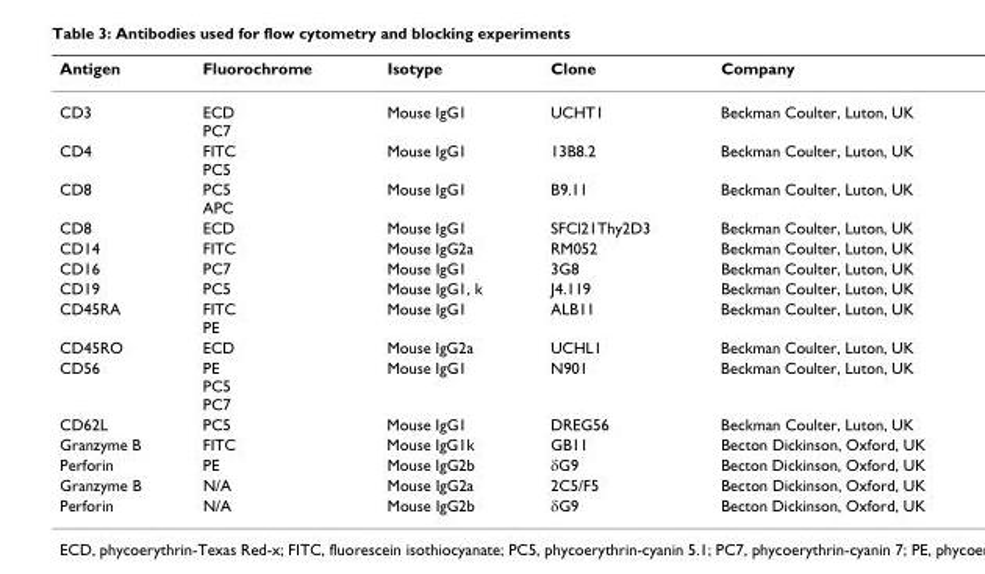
<table><thead><tr><td>Antigen</td><td>Fluorochrome</td><td>Isotype</td><td>Clone</td><td>Company</td></tr></thead><tbody><tr><td>CD3</td><td>ECD PC7</td><td>Mouse IgG1</td><td>UCHT1</td><td>Beckman Coulter, Luton, UK</td></tr><tr><td>CD4</td><td>FITC PC5</td><td>Mouse IgG1</td><td>13B8.2</td><td>Beckman Coulter, Luton, UK</td></tr><tr><td>CD8</td><td>PC5 APC</td><td>Mouse IgG1</td><td>B9.11</td><td>Beckman Coulter, Luton, UK</td></tr><tr><td>CD8</td><td>ECD</td><td>Mouse IgG1</td><td>SFCl21Thy2D3</td><td>Beckman Coulter, Luton, UK</td></tr><tr><td>CD14</td><td>FITC</td><td>Mouse IgG2a</td><td>RM052</td><td>Beckman Coulter, Luton, UK</td></tr><tr><td>CD16</td><td>PC7</td><td>Mouse IgG1</td><td>3G8</td><td>Beckman Coulter, Luton, UK</td></tr><tr><td>CD19</td><td>PC5</td><td>Mouse IgG1, k</td><td>J4.119</td><td>Beckman Coulter, Luton, UK</td></tr><tr><td>CD45RA</td><td>FITC PE</td><td>Mouse IgG1</td><td>ALB11</td><td>Beckman Coulter, Luton, UK</td></tr><tr><td>CD45RO</td><td>ECD</td><td>Mouse IgG2a</td><td>UCHL1</td><td>Beckman Coulter, Luton, UK</td></tr><tr><td>CD56</td><td>PE PC5 PC7</td><td>Mouse IgG1</td><td>N901</td><td>Beckman Coulter, Luton, UK</td></tr><tr><td>CD62L</td><td>PC5</td><td>Mouse IgG1</td><td>DREG56</td><td>Beckman Coulter, Luton, UK</td></tr><tr><td>Granzyme B</td><td>FITC</td><td>Mouse IgG1k</td><td>GB11</td><td>Becton Dickinson, Oxford, UK</td></tr><tr><td>Perforin</td><td>PE</td><td>Mouse IgG2b</td><td>δG9</td><td>Becton Dickinson, Oxford, UK</td></tr><tr><td>Granzyme B</td><td>N/A</td><td>Mouse IgG2a</td><td>2C5/F5</td><td>Becton Dickinson, Oxford, UK</td></tr><tr><td>Perforin</td><td>N/A</td><td>Mouse IgG2b</td><td>δG9</td><td>Becton Dickinson, Oxford, UK</td></tr></tbody></table>